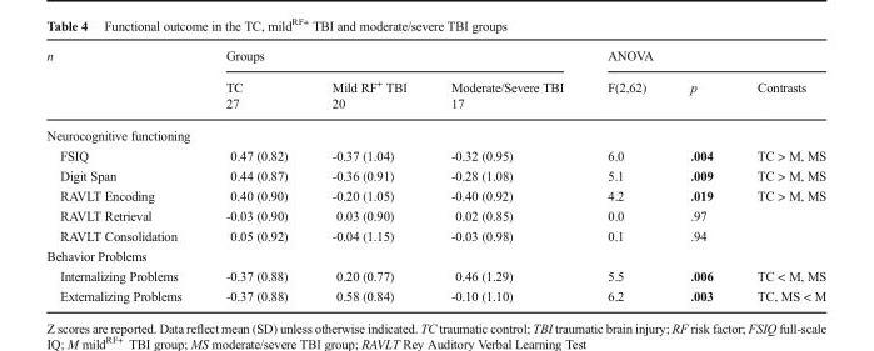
<table><thead><tr><td rowspan="3">n</td><td colspan="3">Groups</td><td colspan="3">ANOVA</td></tr><tr><td rowspan="2">TC 27</td><td rowspan="2">Mild RF<sup>+</sup> TBI 20</td><td rowspan="2">Moderate/Severe TBI 17</td><td rowspan="2">F(2,62)</td><td rowspan="2">p</td><td rowspan="2">Contrasts</td></tr><tr></tr></thead><tbody><tr><td colspan="7">Neurocognitive functioning</td></tr><tr><td>FSIQ</td><td>0.47 (0.82)</td><td>-0.37 (1.04)</td><td>-0.32 (0.95)</td><td>6.0</td><td>.004</td><td>TC &gt; M, MS</td></tr><tr><td>Digit Span</td><td>0.44 (0.87)</td><td>-0.36 (0.91)</td><td>-0.28 (1.08)</td><td>5.1</td><td>.009</td><td>TC &gt; M, MS</td></tr><tr><td>RAVLT Encoding</td><td>0.40 (0.90)</td><td>-0.20 (1.05)</td><td>-0.40 (0.92)</td><td>4.2</td><td>.019</td><td>TC &gt; M, MS</td></tr><tr><td>RAVLT Retrieval</td><td>-0.03 (0.90)</td><td>0.03 (0.90)</td><td>0.02 (0.85)</td><td>0.0</td><td>.97</td><td></td></tr><tr><td>RAVLT Consolidation</td><td>0.05 (0.92)</td><td>-0.04 (1.15)</td><td>-0.03 (0.98)</td><td>0.1</td><td>.94</td><td></td></tr><tr><td colspan="7">Behavior Problems</td></tr><tr><td>Internalizing Problems</td><td>-0.37 (0.88)</td><td>0.20 (0.77)</td><td>0.46 (1.29)</td><td>5.5</td><td>.006</td><td>TC &lt; M, MS</td></tr><tr><td>Externalizing Problems</td><td>-0.37 (0.88)</td><td>0.58 (0.84)</td><td>-0.10 (1.10)</td><td>6.2</td><td>.003</td><td>TC, MS &lt; M</td></tr></tbody></table>